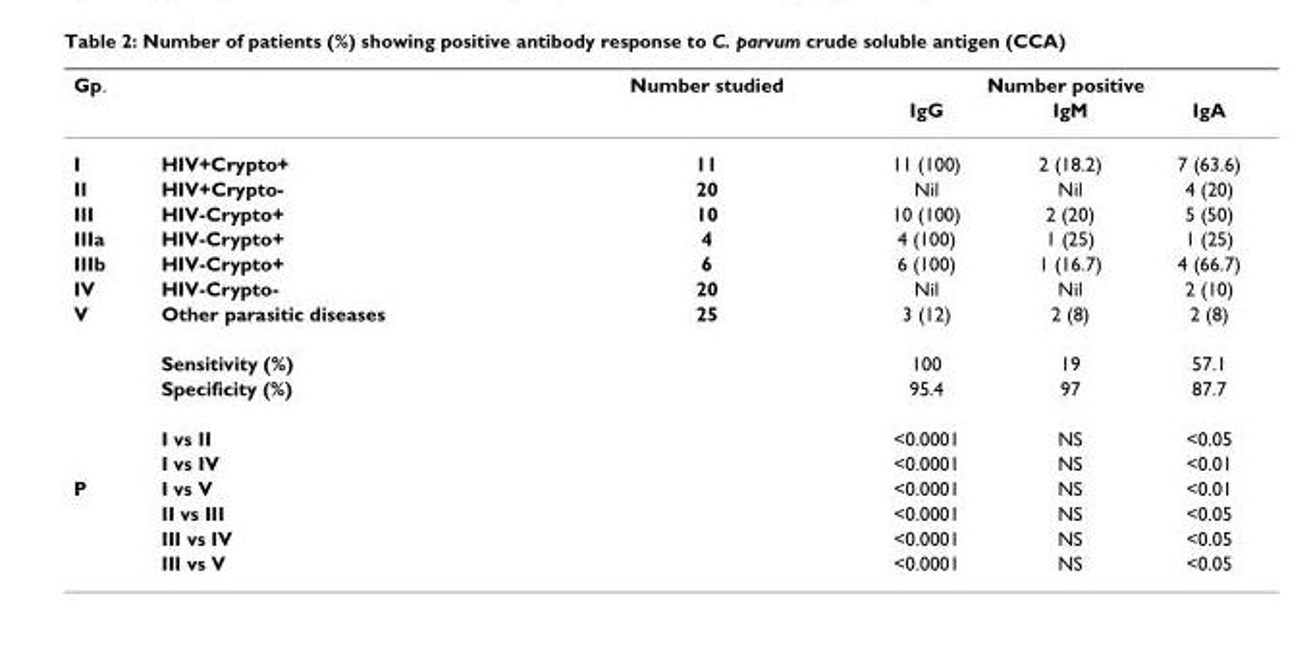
<table><thead><tr><td rowspan="2">Gp.</td><td rowspan="2"></td><td rowspan="2">Number studied</td><td colspan="3">Number positive</td></tr><tr><td>IgG</td><td>IgM</td><td>IgA</td></tr></thead><tbody><tr><td>I</td><td>HIV+Crypto+</td><td>11</td><td>11 (100)</td><td>2 (18.2)</td><td>7 (63.6)</td></tr><tr><td>II</td><td>HIV+Crypto-</td><td>20</td><td>Nil</td><td>Nil</td><td>4 (20)</td></tr><tr><td>III</td><td>HIV-Crypto+</td><td>10</td><td>10 (100)</td><td>2 (20)</td><td>5 (50)</td></tr><tr><td>IIIa</td><td>HIV-Crypto+</td><td>4</td><td>4 (100)</td><td>1 (25)</td><td>1 (25)</td></tr><tr><td>IIIb</td><td>HIV-Crypto+</td><td>6</td><td>6 (100)</td><td>1 (16.7)</td><td>4 (66.7)</td></tr><tr><td>IV</td><td>HIV-Crypto-</td><td>20</td><td>Nil</td><td>Nil</td><td>2 (10)</td></tr><tr><td rowspan="5">V</td><td>Other parasitic diseases</td><td>25</td><td>3 (12)</td><td>2 (8)</td><td>2 (8)</td></tr><tr><td>Sensitivity (%)</td><td></td><td>100</td><td>19</td><td>57.1</td></tr><tr><td>Specificity (%)</td><td></td><td>95.4</td><td>97</td><td>87.7</td></tr><tr><td>I vs II</td><td></td><td>&lt;0.0001</td><td>NS</td><td>&lt;0.05</td></tr><tr><td>I vs IV</td><td></td><td>&lt;0.0001</td><td>NS</td><td>&lt;0.01</td></tr><tr><td rowspan="4">P</td><td>I vs V</td><td></td><td>&lt;0.0001</td><td>NS</td><td>&lt;0.01</td></tr><tr><td>II vs III</td><td></td><td>&lt;0.0001</td><td>NS</td><td>&lt;0.05</td></tr><tr><td>III vs IV</td><td></td><td>&lt;0.0001</td><td>NS</td><td>&lt;0.05</td></tr><tr><td>III vs V</td><td></td><td>&lt;0.0001</td><td>NS</td><td>&lt;0.05</td></tr></tbody></table>